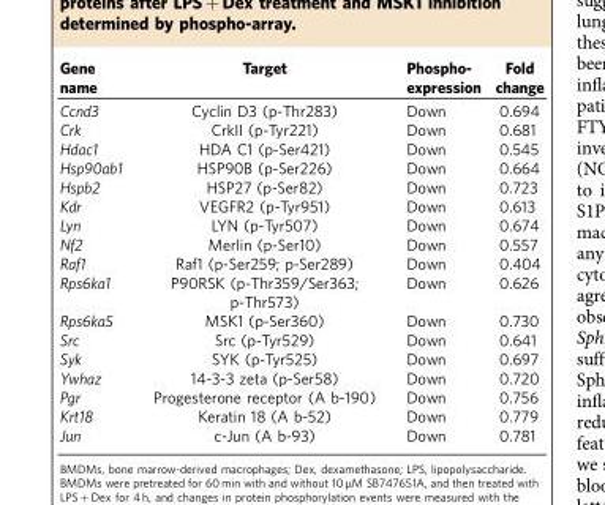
<table><thead><tr><td>Gene name</td><td>Target</td><td>Phospho- expression</td><td>Fold change</td></tr></thead><tbody><tr><td>Ccnd3</td><td>Cyclin D3 (p-Thr283)</td><td>Down</td><td>0.694</td></tr><tr><td>Crk</td><td>CrkII (p-Tyr221)</td><td>Down</td><td>0.681</td></tr><tr><td>Hdac1</td><td>HDA C1 (p-Ser421)</td><td>Down</td><td>0.545</td></tr><tr><td>Hsp90ab1</td><td>HSP90B (p-Ser226)</td><td>Down</td><td>0.664</td></tr><tr><td>Hspb2</td><td>HSP27 (p-Ser82)</td><td>Down</td><td>0.723</td></tr><tr><td>Kdr</td><td>VEGFR2 (p-Tyr951)</td><td>Down</td><td>0.613</td></tr><tr><td>Lyn</td><td>LYN (p-Tyr507)</td><td>Down</td><td>0.674</td></tr><tr><td>Nf2</td><td>Merlin (p-Ser10)</td><td>Down</td><td>0.557</td></tr><tr><td>Raf1</td><td>Raf1 (p-Ser259; p-Ser289)</td><td>Down</td><td>0.404</td></tr><tr><td>Rps6ka1</td><td>P90RSK (p-Thr359/Ser363; p-Thr573)</td><td>Down</td><td>0.626</td></tr><tr><td>Rps6ka5</td><td>MSK1 (p-Ser360)</td><td>Down</td><td>0.730</td></tr><tr><td>Src</td><td>Src (p-Tyr529)</td><td>Down</td><td>0.641</td></tr><tr><td>Syk</td><td>SYK (p-Tyr525)</td><td>Down</td><td>0.697</td></tr><tr><td>Ywhaz</td><td>14-3-3 zeta (p-Ser58)</td><td>Down</td><td>0.720</td></tr><tr><td>Pgr</td><td>Progesterone receptor (A b-190)</td><td>Down</td><td>0.756</td></tr><tr><td>Krt18</td><td>Keratin 18 (A b-52)</td><td>Down</td><td>0.779</td></tr><tr><td>Jun</td><td>c-Jun (A b-93)</td><td>Down</td><td>0.781</td></tr></tbody></table>